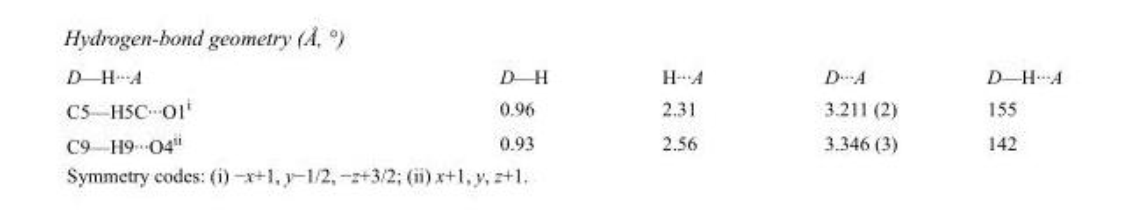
<table><tbody><tr><td>D—H···A</td><td>D—H</td><td>H···A</td><td>D···A</td><td>D—H···A</td></tr><tr><td>C5—H5C···O1<sup>i</sup></td><td>0.96</td><td>2.31</td><td>3.211 (2)</td><td>155</td></tr><tr><td>C9—H9···O4<sup>ii</sup></td><td>0.93</td><td>2.56</td><td>3.346 (3)</td><td>142</td></tr></tbody></table>